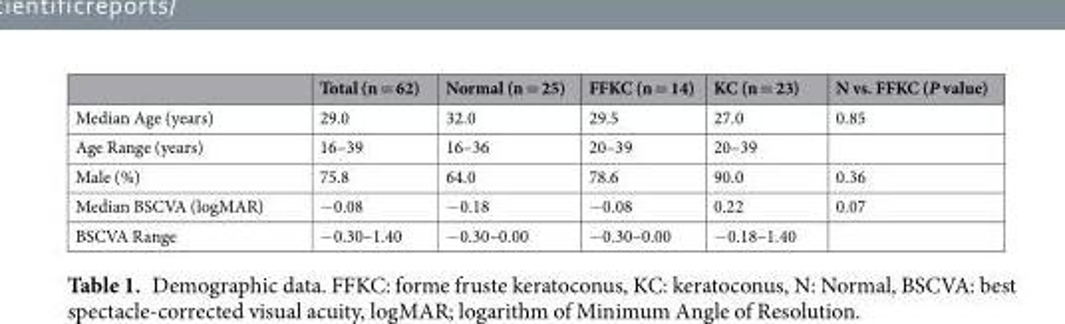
<table><thead><tr><td></td><td>Total (n = 62)</td><td>Normal (n = 25)</td><td>FFKC (n = 14)</td><td>KC (n = 23)</td><td>N vs. FFKC (P value)</td></tr></thead><tbody><tr><td>Median Age (years)</td><td>29.0</td><td>32.0</td><td>29.5</td><td>27.0</td><td>0.85</td></tr><tr><td>Age Range (years)</td><td>16–39</td><td>16–36</td><td>20–39</td><td>20–39</td><td></td></tr><tr><td>Male (%)</td><td>75.8</td><td>64.0</td><td>78.6</td><td>90.0</td><td>0.36</td></tr><tr><td>Median BSCVA (logMAR)</td><td>−0.08</td><td>−0.18</td><td>−0.08</td><td>0.22</td><td>0.07</td></tr><tr><td>BSCVA Range</td><td>−0.30–1.40</td><td>−0.30–0.00</td><td>−0.30–0.00</td><td>−0.18–1.40</td><td></td></tr></tbody></table>